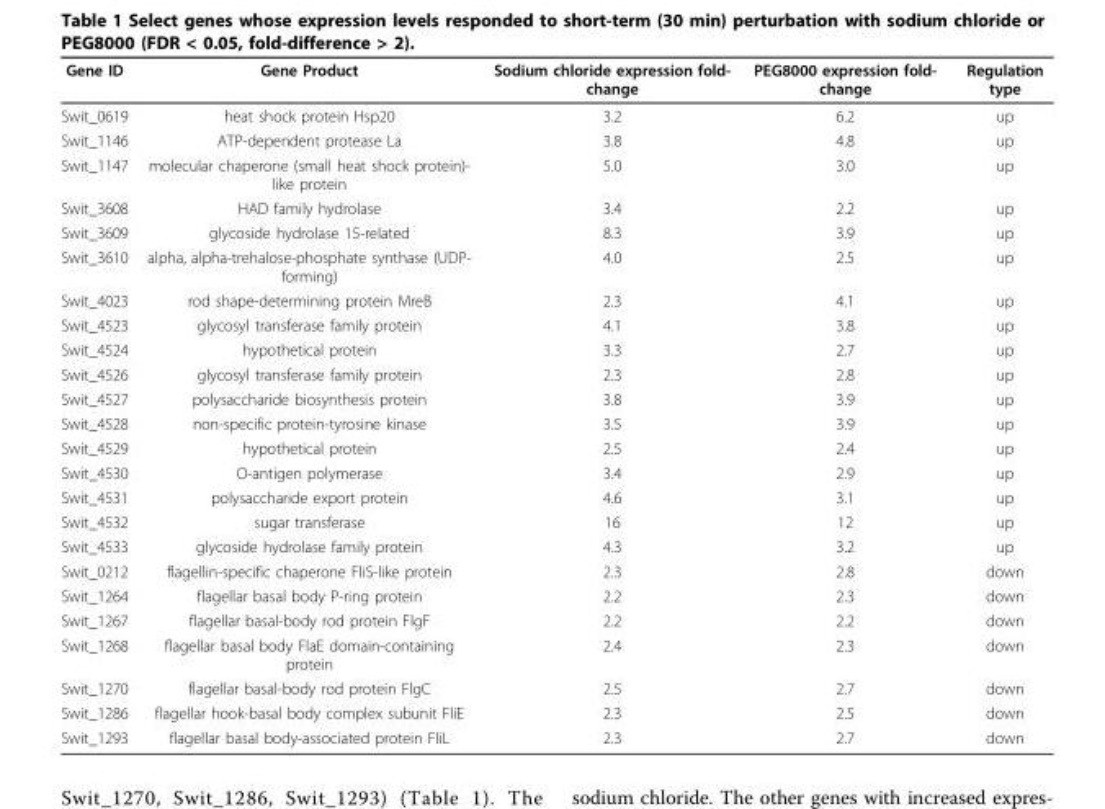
<table><thead><tr><td>Gene ID</td><td>Gene Product</td><td>Sodium chloride expression fold- change</td><td>PEG8000 expression fold- change</td><td>Regulation type</td></tr></thead><tbody><tr><td>Swit_0619</td><td>heat shock protein Hsp20</td><td>3.2</td><td>6.2</td><td>up</td></tr><tr><td>Swit_1146</td><td>ATP-dependent protease La</td><td>3.8</td><td>4.8</td><td>up</td></tr><tr><td>Swit_1147</td><td>molecular chaperone (small heat shock protein)- like protein</td><td>5.0</td><td>3.0</td><td>up</td></tr><tr><td>Swit_3608</td><td>HAD family hydrolase</td><td>3.4</td><td>2.2</td><td>up</td></tr><tr><td>Swit_3609</td><td>glycoside hydrolase 15-related</td><td>8.3</td><td>3.9</td><td>up</td></tr><tr><td>Swit_3610</td><td>alpha, alpha-trehalose-phosphate synthase (UDP- forming)</td><td>4.0</td><td>2.5</td><td>up</td></tr><tr><td>Swit_4023</td><td>rod shape-determining protein MreB</td><td>2.3</td><td>4.1</td><td>up</td></tr><tr><td>Swit_4523</td><td>glycosyl transferase family protein</td><td>4.1</td><td>3.8</td><td>up</td></tr><tr><td>Swit_4524</td><td>hypothetical protein</td><td>3.3</td><td>2.7</td><td>up</td></tr><tr><td>Swit_4526</td><td>glycosyl transferase family protein</td><td>2.3</td><td>2.8</td><td>up</td></tr><tr><td>Swit_4527</td><td>polysaccharide biosynthesis protein</td><td>3.8</td><td>3.9</td><td>up</td></tr><tr><td>Swit_4528</td><td>non-specific protein-tyrosine kinase</td><td>3.5</td><td>3.9</td><td>up</td></tr><tr><td>Swit_4529</td><td>hypothetical protein</td><td>2.5</td><td>2.4</td><td>up</td></tr><tr><td>Swit_4530</td><td>O-antigen polymerase</td><td>3.4</td><td>2.9</td><td>up</td></tr><tr><td>Swit_4531</td><td>polysaccharide export protein</td><td>4.6</td><td>3.1</td><td>up</td></tr><tr><td>Swit_4532</td><td>sugar transferase</td><td>16</td><td>12</td><td>up</td></tr><tr><td>Swit_4533</td><td>glycoside hydrolase family protein</td><td>4.3</td><td>3.2</td><td>up</td></tr><tr><td>Swit_0212</td><td>flagellin-specific chaperone FliS-like protein</td><td>2.3</td><td>2.8</td><td>down</td></tr><tr><td>Swit_1264</td><td>flagellar basal body P-ring protein</td><td>2.2</td><td>2.3</td><td>down</td></tr><tr><td>Swit_1267</td><td>flagellar basal-body rod protein FlgF</td><td>2.2</td><td>2.2</td><td>down</td></tr><tr><td>Swit_1268</td><td>flagellar basal body FlaE domain-containing protein</td><td>2.4</td><td>2.3</td><td>down</td></tr><tr><td>Swit_1270</td><td>flagellar basal-body rod protein FlgC</td><td>2.5</td><td>2.7</td><td>down</td></tr><tr><td>Swit_1286</td><td>flagellar hook-basal body complex subunit FliE</td><td>2.3</td><td>2.5</td><td>down</td></tr><tr><td>Swit_1293</td><td>flagellar basal body-associated protein FliL</td><td>2.3</td><td>2.7</td><td>down</td></tr></tbody></table>